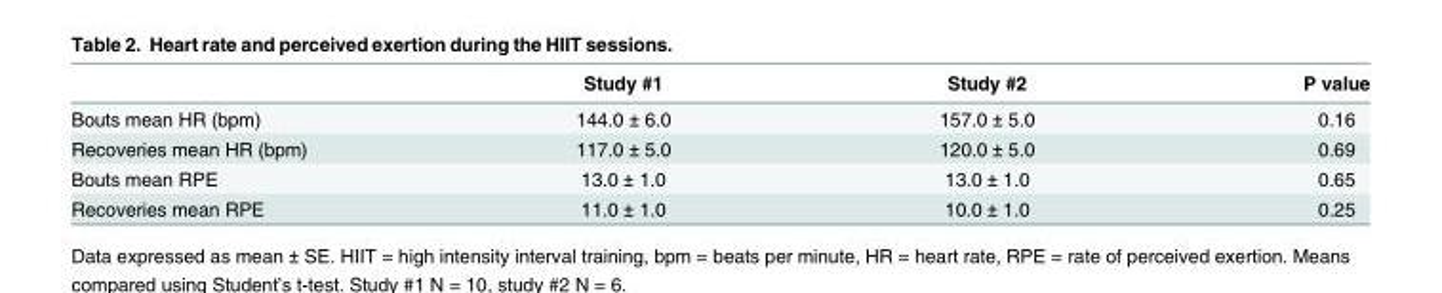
<table><thead><tr><td></td><td>Study #1</td><td>Study #2</td><td>P value</td></tr></thead><tbody><tr><td>Bouts mean HR (bpm)</td><td>144.0 ± 6.0</td><td>157.0 ± 5.0</td><td>0.16</td></tr><tr><td>Recoveries mean HR (bpm)</td><td>117.0 ± 5.0</td><td>120.0 ± 5.0</td><td>0.69</td></tr><tr><td>Bouts mean RPE</td><td>13.0 ± 1.0</td><td>13.0 ± 1.0</td><td>0.65</td></tr><tr><td>Recoveries mean RPE</td><td>11.0 ± 1.0</td><td>10.0 ± 1.0</td><td>0.25</td></tr></tbody></table>